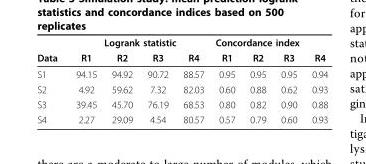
<table><thead><tr><td rowspan="2">Data</td><td colspan="4">Logrank statistic</td><td colspan="4">Concordance index</td></tr><tr><td>R1</td><td>R2</td><td>R3</td><td>R4</td><td>R1</td><td>R2</td><td>R3</td><td>R4</td></tr></thead><tbody><tr><td>S1</td><td>94.15</td><td>94.92</td><td>90.72</td><td>88.57</td><td>0.95</td><td>0.95</td><td>0.95</td><td>0.94</td></tr><tr><td>S2</td><td>4.92</td><td>59.62</td><td>7.32</td><td>82.03</td><td>0.60</td><td>0.88</td><td>0.62</td><td>0.93</td></tr><tr><td>S3</td><td>39.45</td><td>45.70</td><td>76.19</td><td>68.53</td><td>0.80</td><td>0.82</td><td>0.90</td><td>0.88</td></tr><tr><td>S4</td><td>2.27</td><td>29.09</td><td>4.54</td><td>80.57</td><td>0.57</td><td>0.79</td><td>0.60</td><td>0.93</td></tr></tbody></table>